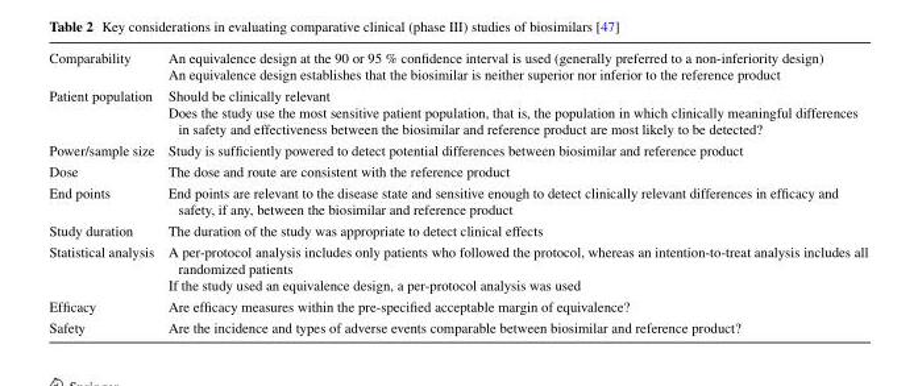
<table><tbody><tr><td>Comparability</td><td>An equivalence design at the 90 or 95 % confidence interval is used (generally preferred to a non-inferiority design) An equivalence design establishes that the biosimilar is neither superior nor inferior to the reference product</td></tr><tr><td>Patient population</td><td>Should be clinically relevant Does the study use the most sensitive patient population, that is, the population in which clinically meaningful differences in safety and effectiveness between the biosimilar and reference product are most likely to be detected?</td></tr><tr><td>Power/sample size</td><td>Study is sufficiently powered to detect potential differences between biosimilar and reference product</td></tr><tr><td>Dose</td><td>The dose and route are consistent with the reference product</td></tr><tr><td>End points</td><td>End points are relevant to the disease state and sensitive enough to detect clinically relevant differences in efficacy and safety, if any, between the biosimilar and reference product</td></tr><tr><td>Study duration</td><td>The duration of the study was appropriate to detect clinical effects</td></tr><tr><td>Statistical analysis</td><td>A per-protocol analysis includes only patients who followed the protocol, whereas an intention-to-treat analysis includes all randomized patients If the study used an equivalence design, a per-protocol analysis was used</td></tr><tr><td>Efficacy</td><td>Are efficacy measures within the pre-specified acceptable margin of equivalence?</td></tr><tr><td>Safety</td><td>Are the incidence and types of adverse events comparable between biosimilar and reference product?</td></tr></tbody></table>